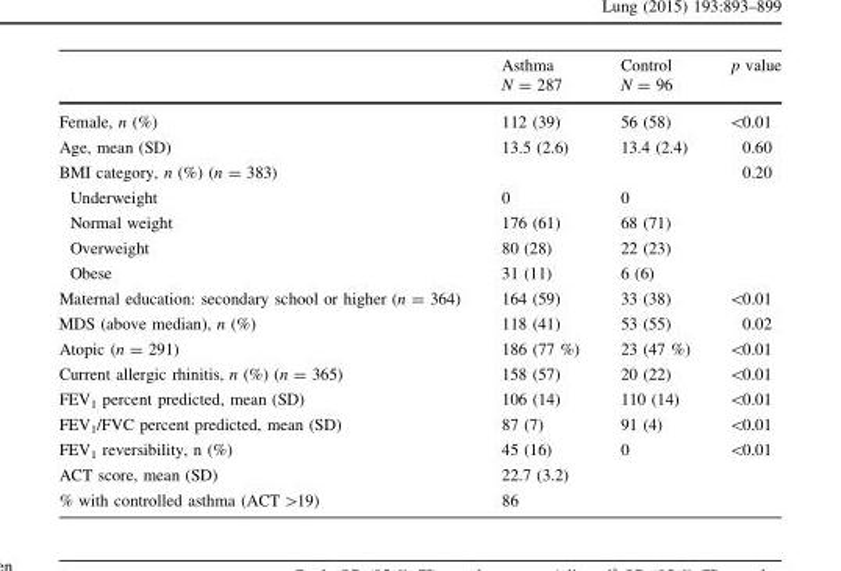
<table><thead><tr><td></td><td>Asthma N = 287</td><td>Control N = 96</td><td>p value</td></tr></thead><tbody><tr><td>Female, n (%)</td><td>112 (39)</td><td>56 (58)</td><td>&lt;0.01</td></tr><tr><td>Age, mean (SD)</td><td>13.5 (2.6)</td><td>13.4 (2.4)</td><td>0.60</td></tr><tr><td>BMI category, n (%) (n = 383)</td><td></td><td></td><td>0.20</td></tr><tr><td>Underweight</td><td>0</td><td>0</td><td></td></tr><tr><td>Normal weight</td><td>176 (61)</td><td>68 (71)</td><td></td></tr><tr><td>Overweight</td><td>80 (28)</td><td>22 (23)</td><td></td></tr><tr><td>Obese</td><td>31 (11)</td><td>6 (6)</td><td></td></tr><tr><td>Maternal education: secondary school or higher (n = 364)</td><td>164 (59)</td><td>33 (38)</td><td>&lt;0.01</td></tr><tr><td>MDS (above median), n (%)</td><td>118 (41)</td><td>53 (55)</td><td>0.02</td></tr><tr><td>Atopic (n = 291)</td><td>186 (77 %)</td><td>23 (47 %)</td><td>&lt;0.01</td></tr><tr><td>Current allergic rhinitis, n (%) (n = 365)</td><td>158 (57)</td><td>20 (22)</td><td>&lt;0.01</td></tr><tr><td>FEV<sub>1</sub> percent predicted, mean (SD)</td><td>106 (14)</td><td>110 (14)</td><td>&lt;0.01</td></tr><tr><td>FEV<sub>1</sub>/FVC percent predicted, mean (SD)</td><td>87 (7)</td><td>91 (4)</td><td>&lt;0.01</td></tr><tr><td>FEV<sub>1</sub> reversibility, n (%)</td><td>45 (16)</td><td>0</td><td>&lt;0.01</td></tr><tr><td>ACT score, mean (SD)</td><td>22.7 (3.2)</td><td></td><td></td></tr><tr><td>% with controlled asthma (ACT &gt;19)</td><td>86</td><td></td><td></td></tr></tbody></table>